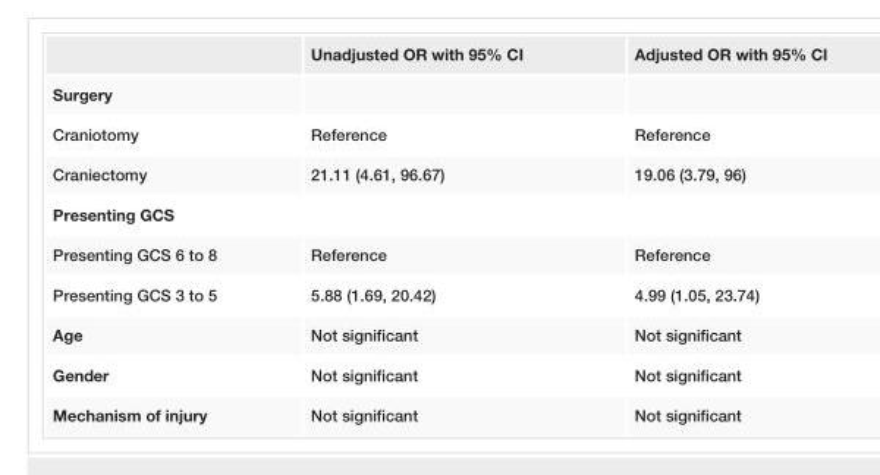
<table><thead><tr><td></td><td>Unadjusted OR with 95% CI</td><td>Adjusted OR with 95% CI</td></tr></thead><tbody><tr><td colspan="3">Surgery</td></tr><tr><td>Craniotomy</td><td>Reference</td><td>Reference</td></tr><tr><td>Craniectomy</td><td>21.11 (4.61, 96.67)</td><td>19.06 (3.79, 96)</td></tr><tr><td colspan="3">Presenting GCS</td></tr><tr><td>Presenting GCS 6 to 8</td><td>Reference</td><td>Reference</td></tr><tr><td>Presenting GCS 3 to 5</td><td>5.88 (1.69, 20.42)</td><td>4.99 (1.05, 23.74)</td></tr><tr><td>Age</td><td>Not significant</td><td>Not significant</td></tr><tr><td>Gender</td><td>Not significant</td><td>Not significant</td></tr><tr><td>Mechanism of injury</td><td>Not significant</td><td>Not significant</td></tr></tbody></table>